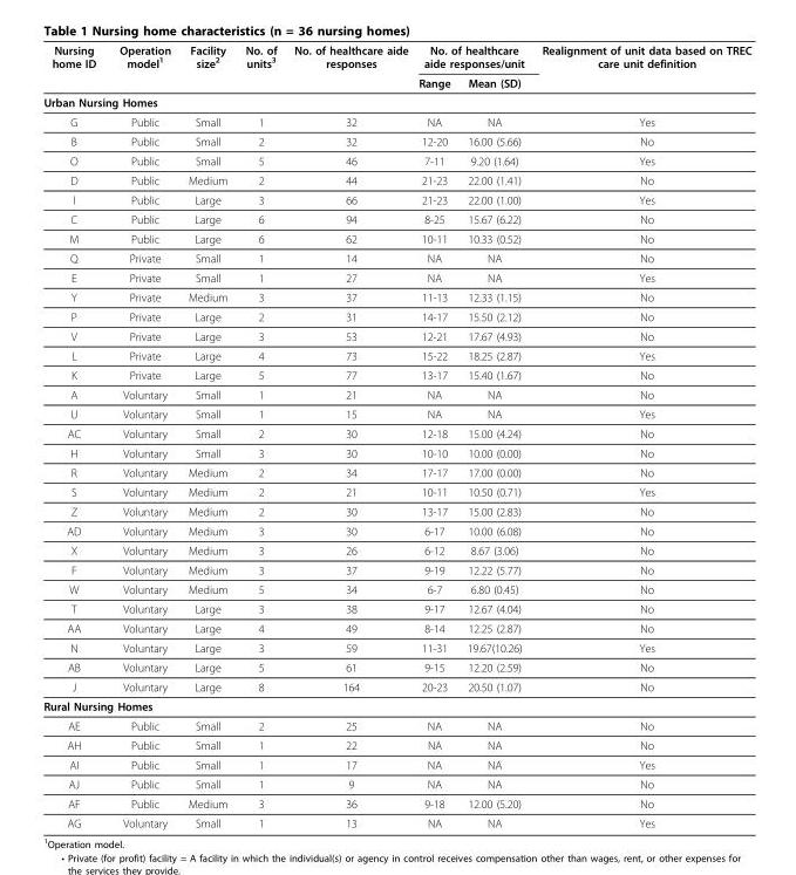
<table><thead><tr><td rowspan="2">Nursing home ID</td><td rowspan="2">Operation model<sup>1</sup></td><td rowspan="2">Facility size<sup>2</sup></td><td rowspan="2">No. of units<sup>3</sup></td><td rowspan="2">No. of healthcare aide responses</td><td colspan="2">No. of healthcare aide responses/unit</td><td rowspan="2">Realignment of unit data based on TREC care unit definition</td></tr><tr><td>Range</td><td>Mean (SD)</td></tr></thead><tbody><tr><td colspan="8">Urban Nursing Homes</td></tr><tr><td>G</td><td>Public</td><td>Small</td><td>1</td><td>32</td><td>NA</td><td>NA</td><td>Yes</td></tr><tr><td>B</td><td>Public</td><td>Small</td><td>2</td><td>32</td><td>12-20</td><td>16.00 (5.66)</td><td>No</td></tr><tr><td>O</td><td>Public</td><td>Small</td><td>5</td><td>46</td><td>7-11</td><td>9.20 (1.64)</td><td>Yes</td></tr><tr><td>D</td><td>Public</td><td>Medium</td><td>2</td><td>44</td><td>21-23</td><td>22.00 (1.41)</td><td>No</td></tr><tr><td>I</td><td>Public</td><td>Large</td><td>3</td><td>66</td><td>21-23</td><td>22.00 (1.00)</td><td>Yes</td></tr><tr><td>C</td><td>Public</td><td>Large</td><td>6</td><td>94</td><td>8-25</td><td>15.67 (6.22)</td><td>No</td></tr><tr><td>M</td><td>Public</td><td>Large</td><td>6</td><td>62</td><td>10-11</td><td>10.33 (0.52)</td><td>No</td></tr><tr><td>Q</td><td>Private</td><td>Small</td><td>1</td><td>14</td><td>NA</td><td>NA</td><td>No</td></tr><tr><td>E</td><td>Private</td><td>Small</td><td>1</td><td>27</td><td>NA</td><td>NA</td><td>Yes</td></tr><tr><td>Y</td><td>Private</td><td>Medium</td><td>3</td><td>37</td><td>11-13</td><td>12.33 (1.15)</td><td>No</td></tr><tr><td>P</td><td>Private</td><td>Large</td><td>2</td><td>31</td><td>14-17</td><td>15.50 (2.12)</td><td>No</td></tr><tr><td>V</td><td>Private</td><td>Large</td><td>3</td><td>53</td><td>12-21</td><td>17.67 (4.93)</td><td>No</td></tr><tr><td>L</td><td>Private</td><td>Large</td><td>4</td><td>73</td><td>15-22</td><td>18.25 (2.87)</td><td>Yes</td></tr><tr><td>K</td><td>Private</td><td>Large</td><td>5</td><td>77</td><td>13-17</td><td>15.40 (1.67)</td><td>No</td></tr><tr><td>A</td><td>Voluntary</td><td>Small</td><td>1</td><td>21</td><td>NA</td><td>NA</td><td>No</td></tr><tr><td>U</td><td>Voluntary</td><td>Small</td><td>1</td><td>15</td><td>NA</td><td>NA</td><td>Yes</td></tr><tr><td>AC</td><td>Voluntary</td><td>Small</td><td>2</td><td>30</td><td>12-18</td><td>15.00 (4.24)</td><td>No</td></tr><tr><td>H</td><td>Voluntary</td><td>Small</td><td>3</td><td>30</td><td>10-10</td><td>10.00 (0.00)</td><td>No</td></tr><tr><td>R</td><td>Voluntary</td><td>Medium</td><td>2</td><td>34</td><td>17-17</td><td>17.00 (0.00)</td><td>No</td></tr><tr><td>S</td><td>Voluntary</td><td>Medium</td><td>2</td><td>21</td><td>10-11</td><td>10.50 (0.71)</td><td>Yes</td></tr><tr><td>Z</td><td>Voluntary</td><td>Medium</td><td>2</td><td>30</td><td>13-17</td><td>15.00 (2.83)</td><td>No</td></tr><tr><td>AD</td><td>Voluntary</td><td>Medium</td><td>3</td><td>30</td><td>6-17</td><td>10.00 (6.08)</td><td>No</td></tr><tr><td>X</td><td>Voluntary</td><td>Medium</td><td>3</td><td>26</td><td>6-12</td><td>8.67 (3.06)</td><td>No</td></tr><tr><td>F</td><td>Voluntary</td><td>Medium</td><td>3</td><td>37</td><td>9-19</td><td>12.22 (5.77)</td><td>No</td></tr><tr><td>W</td><td>Voluntary</td><td>Medium</td><td>5</td><td>34</td><td>6-7</td><td>6.80 (0.45)</td><td>No</td></tr><tr><td>T</td><td>Voluntary</td><td>Large</td><td>3</td><td>38</td><td>9-17</td><td>12.67 (4.04)</td><td>No</td></tr><tr><td>AA</td><td>Voluntary</td><td>Large</td><td>4</td><td>49</td><td>8-14</td><td>12.25 (2.87)</td><td>No</td></tr><tr><td>N</td><td>Voluntary</td><td>Large</td><td>3</td><td>59</td><td>11-31</td><td>19.67(10.26)</td><td>Yes</td></tr><tr><td>AB</td><td>Voluntary</td><td>Large</td><td>5</td><td>61</td><td>9-15</td><td>12.20 (2.59)</td><td>No</td></tr><tr><td>J</td><td>Voluntary</td><td>Large</td><td>8</td><td>164</td><td>20-23</td><td>20.50 (1.07)</td><td>No</td></tr><tr><td colspan="8">Rural Nursing Homes</td></tr><tr><td>AE</td><td>Public</td><td>Small</td><td>2</td><td>25</td><td>NA</td><td>NA</td><td>No</td></tr><tr><td>AH</td><td>Public</td><td>Small</td><td>1</td><td>22</td><td>NA</td><td>NA</td><td>No</td></tr><tr><td>AI</td><td>Public</td><td>Small</td><td>1</td><td>17</td><td>NA</td><td>NA</td><td>Yes</td></tr><tr><td>AJ</td><td>Public</td><td>Small</td><td>1</td><td>9</td><td>NA</td><td>NA</td><td>No</td></tr><tr><td>AF</td><td>Public</td><td>Medium</td><td>3</td><td>36</td><td>9-18</td><td>12.00 (5.20)</td><td>No</td></tr><tr><td>AG</td><td>Voluntary</td><td>Small</td><td>1</td><td>13</td><td>NA</td><td>NA</td><td>Yes</td></tr></tbody></table>